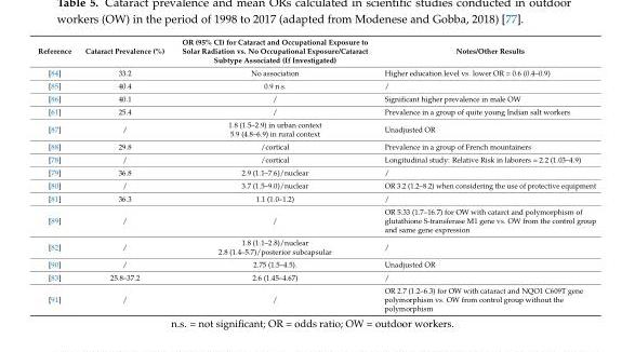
<table><thead><tr><td>Reference</td><td>Cataract Prevalence (%)</td><td>OR (95% CI) for Cataract and Occupational Exposure to Solar Radiation vs. No Occupational Exposure/Cataract Subtype Associated (If Investigated)</td><td>Notes/Other Results</td></tr></thead><tbody><tr><td>[84]</td><td>33.2</td><td>No association</td><td>Higher education level vs. lower OR = 0.6 (0.4–0.9)</td></tr><tr><td>[85]</td><td>40.4</td><td>0.9 n.s.</td><td>/</td></tr><tr><td>[86]</td><td>40.1</td><td>/</td><td>Significant higher prevalence in male OW</td></tr><tr><td>[61]</td><td>25.4</td><td>/</td><td>Prevalence in a group of quite young Indian salt workers</td></tr><tr><td>[87]</td><td>/</td><td>1.8 (1.5–2.9) in urban context 5.9 (4.8–6.9) in rural context</td><td>Unadjusted OR</td></tr><tr><td>[88]</td><td>29.8</td><td>/cortical</td><td>Prevalence in a group of French mountainers</td></tr><tr><td>[78]</td><td>/</td><td>/cortical</td><td>Longitudinal study: Relative Risk in laborers = 2.2 (1.03–4.9)</td></tr><tr><td>[79]</td><td>36.8</td><td>2.9 (1.1–7.6)/nuclear</td><td>/</td></tr><tr><td>[80]</td><td>/</td><td>3.7 (1.5–9.0)/nuclear</td><td>OR 3.2 (1.2–8.2) when considering the use of protective equipment</td></tr><tr><td>[81]</td><td>36.3</td><td>1.1 (1.0–1.2)</td><td>/</td></tr><tr><td>[89]</td><td>/</td><td>/</td><td>OR 5.33 (1.7–16.7) for OW with catarct and polymorphism of glutathione S-transferase M1 gene vs. OW from the control group and same gene expression</td></tr><tr><td>[82]</td><td>/</td><td>1.8 (1.1–2.8)/nuclear 2.8 (1.4–5.7)/posterior subcapsular</td><td>/</td></tr><tr><td>[90]</td><td>/</td><td>2.75 (1.5–4.5).</td><td>Unadjusted OR</td></tr><tr><td>[83]</td><td>25.8–37.2</td><td>2.6 (1.45–4.67)</td><td>/</td></tr><tr><td>[91]</td><td>/</td><td>/</td><td>OR 2.7 (1.2–6.3) for OW with cataract and NQO1 C609T gene polymorphism vs. OW from control group without the polymorphism</td></tr></tbody></table>